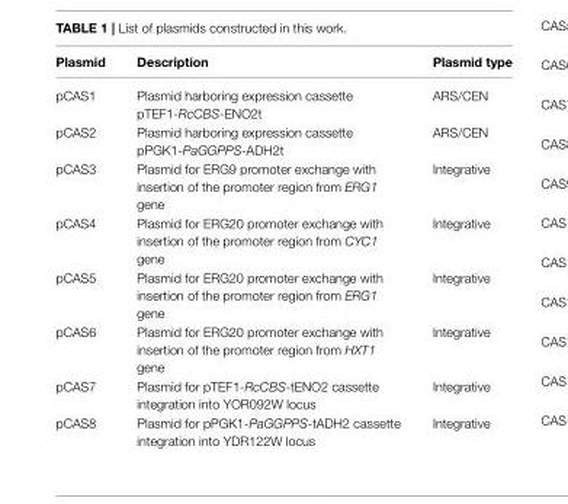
<table><thead><tr><td>Plasmid</td><td>Description</td><td>Plasmid type</td></tr></thead><tbody><tr><td>pCAS1</td><td>Plasmid harboring expression cassette pTEF1-RcCBS-ENO2t</td><td>ARS/CEN</td></tr><tr><td>pCAS2</td><td>Plasmid harboring expression cassette pPGK1-PaGGPPS-ADH2t</td><td>ARS/CEN</td></tr><tr><td>pCAS3</td><td>Plasmid for ERG9 promoter exchange with insertion of the promoter region from ERG1 gene</td><td>Integrative</td></tr><tr><td>pCAS4</td><td>Plasmid for ERG20 promoter exchange with insertion of the promoter region from CYC1 gene</td><td>Integrative</td></tr><tr><td>pCAS5</td><td>Plasmid for ERG20 promoter exchange with insertion of the promoter region from ERG1 gene</td><td>Integrative</td></tr><tr><td>pCAS6</td><td>Plasmid for ERG20 promoter exchange with insertion of the promoter region from HXT1 gene</td><td>Integrative</td></tr><tr><td>pCAS7</td><td>Plasmid for pTEF1-RcCBS-tENO2 cassette integration into YOR092W locus</td><td>Integrative</td></tr><tr><td>pCAS8</td><td>Plasmid for pPGK1-PaGGPPS-tADH2 cassette integration into YDR122W locus</td><td>Integrative</td></tr></tbody></table>